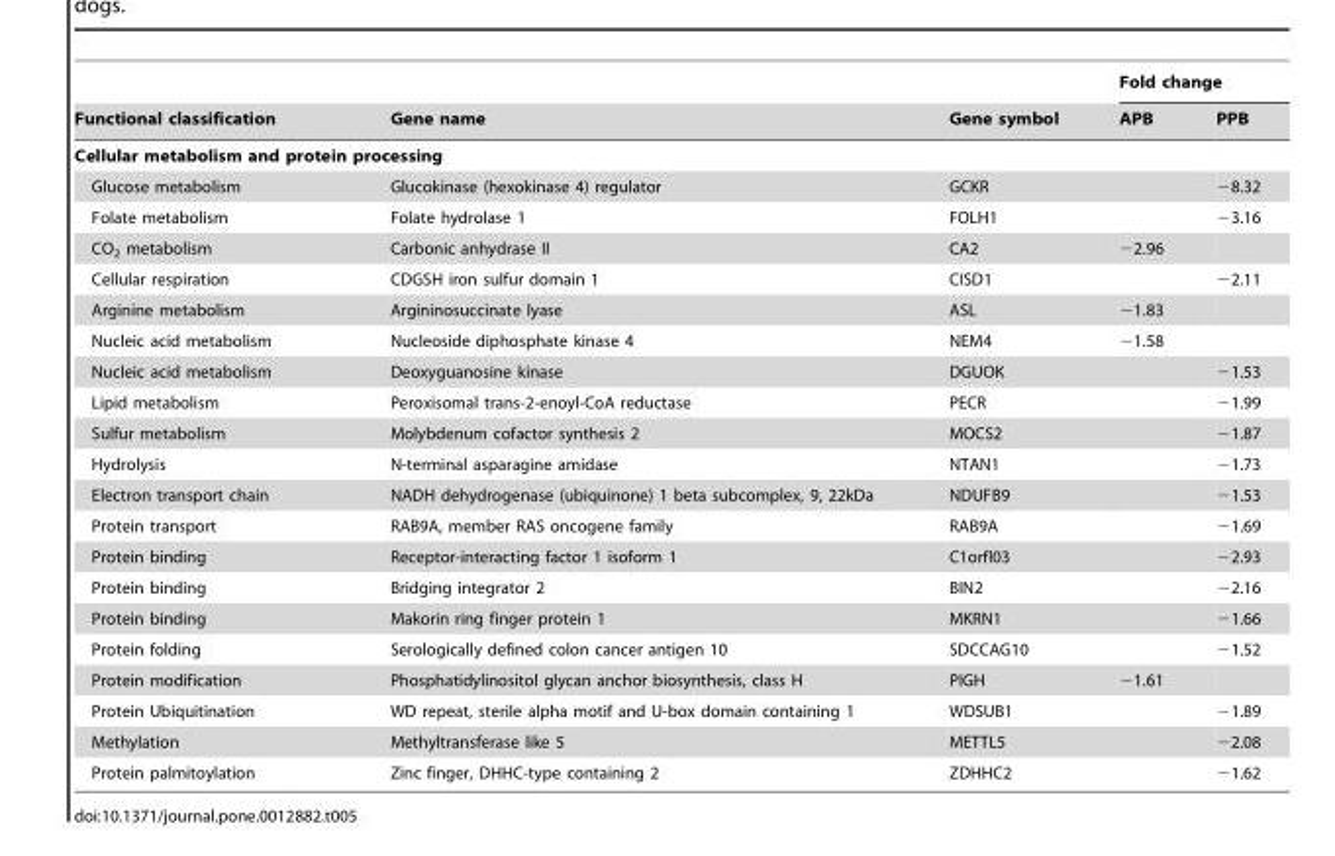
<table><thead><tr><td rowspan="2">Functional classification</td><td rowspan="2">Gene name</td><td rowspan="2">Gene symbol</td><td colspan="2">Fold change</td></tr><tr><td>APB</td><td>PPB</td></tr></thead><tbody><tr><td colspan="5">Cellular metabolism and protein processing</td></tr><tr><td>Glucose metabolism</td><td>Glucokinase (hexokinase 4) regulator</td><td>GCKR</td><td></td><td>−8.32</td></tr><tr><td>Folate metabolism</td><td>Folate hydrolase 1</td><td>FOLH1</td><td></td><td>−3.16</td></tr><tr><td>CO<sub>2</sub> metabolism</td><td>Carbonic anhydrase II</td><td>CA2</td><td>−2.96</td><td></td></tr><tr><td>Cellular respiration</td><td>CDGSH iron sulfur domain 1</td><td>CISD1</td><td></td><td>−2.11</td></tr><tr><td>Arginine metabolism</td><td>Argininosuccinate lyase</td><td>ASL</td><td>−1.83</td><td></td></tr><tr><td>Nucleic acid metabolism</td><td>Nucleoside diphosphate kinase 4</td><td>NEM4</td><td>−1.58</td><td></td></tr><tr><td>Nucleic acid metabolism</td><td>Deoxyguanosine kinase</td><td>DGUOK</td><td></td><td>−1.53</td></tr><tr><td>Lipid metabolism</td><td>Peroxisomal trans-2-enoyl-CoA reductase</td><td>PECR</td><td></td><td>−1.99</td></tr><tr><td>Sulfur metabolism</td><td>Molybdenum cofactor synthesis 2</td><td>MOCS2</td><td></td><td>−1.87</td></tr><tr><td>Hydrolysis</td><td>N-terminal asparagine amidase</td><td>NTAN1</td><td></td><td>−1.73</td></tr><tr><td>Electron transport chain</td><td>NADH dehydrogenase (ubiquinone) 1 beta subcomplex, 9, 22kDa</td><td>NDUFB9</td><td></td><td>−1.53</td></tr><tr><td>Protein transport</td><td>RAB9A, member RAS oncogene family</td><td>RAB9A</td><td></td><td>−1.69</td></tr><tr><td>Protein binding</td><td>Receptor-interacting factor 1 isoform 1</td><td>C1orfl03</td><td></td><td>−2.93</td></tr><tr><td>Protein binding</td><td>Bridging integrator 2</td><td>BIN2</td><td></td><td>−2.16</td></tr><tr><td>Protein binding</td><td>Makorin ring finger protein 1</td><td>MKRN1</td><td></td><td>−1.66</td></tr><tr><td>Protein folding</td><td>Serologically defined colon cancer antigen 10</td><td>SDCCAG10</td><td></td><td>−1.52</td></tr><tr><td>Protein modification</td><td>Phosphatidylinositol glycan anchor biosynthesis, class H</td><td>PIGH</td><td>−1.61</td><td></td></tr><tr><td>Protein Ubiquitination</td><td>WD repeat, sterile alpha motif and U-box domain containing 1</td><td>WDSUB1</td><td></td><td>−1.89</td></tr><tr><td>Methylation</td><td>Methyltransferase like 5</td><td>METTL5</td><td></td><td>−2.08</td></tr><tr><td>Protein palmitoylation</td><td>Zinc finger, DHHC-type containing 2</td><td>ZDHHC2</td><td></td><td>−1.62</td></tr></tbody></table>